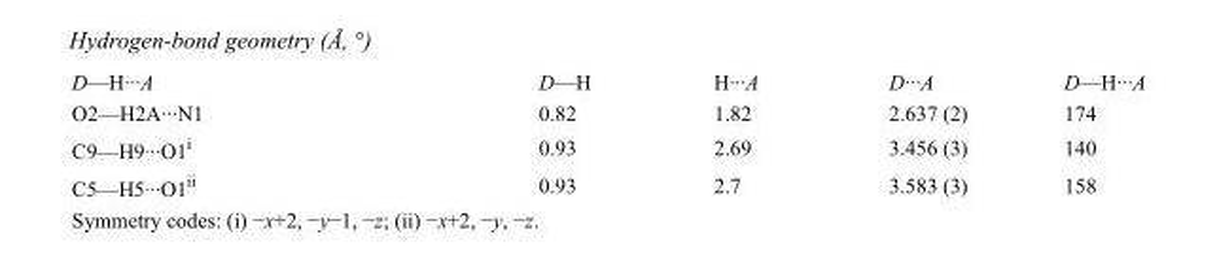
<table><tbody><tr><td>D—H···A</td><td>D—H</td><td>H···A</td><td>D···A</td><td>D—H···A</td></tr><tr><td>O2—H2A···N1</td><td>0.82</td><td>1.82</td><td>2.637 (2)</td><td>174</td></tr><tr><td>C9—H9···O1<sup>i</sup></td><td>0.93</td><td>2.69</td><td>3.456 (3)</td><td>140</td></tr><tr><td>C5—H5···O1<sup>ii</sup></td><td>0.93</td><td>2.7</td><td>3.583 (3)</td><td>158</td></tr></tbody></table>